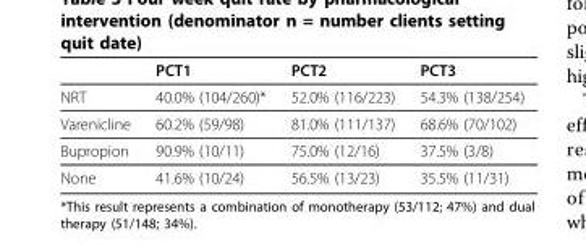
<table><thead><tr><td></td><td>PCT1</td><td>PCT2</td><td>PCT3</td></tr></thead><tbody><tr><td>NRT</td><td>40.0% (104/260)*</td><td>52.0% (116/223)</td><td>54.3% (138/254)</td></tr><tr><td>Varenicline</td><td>60.2% (59/98)</td><td>81.0% (111/137)</td><td>68.6% (70/102)</td></tr><tr><td>Bupropion</td><td>90.9% (10/11)</td><td>75.0% (12/16)</td><td>37.5% (3/8)</td></tr><tr><td>None</td><td>41.6% (10/24)</td><td>56.5% (13/23)</td><td>35.5% (11/31)</td></tr></tbody></table>